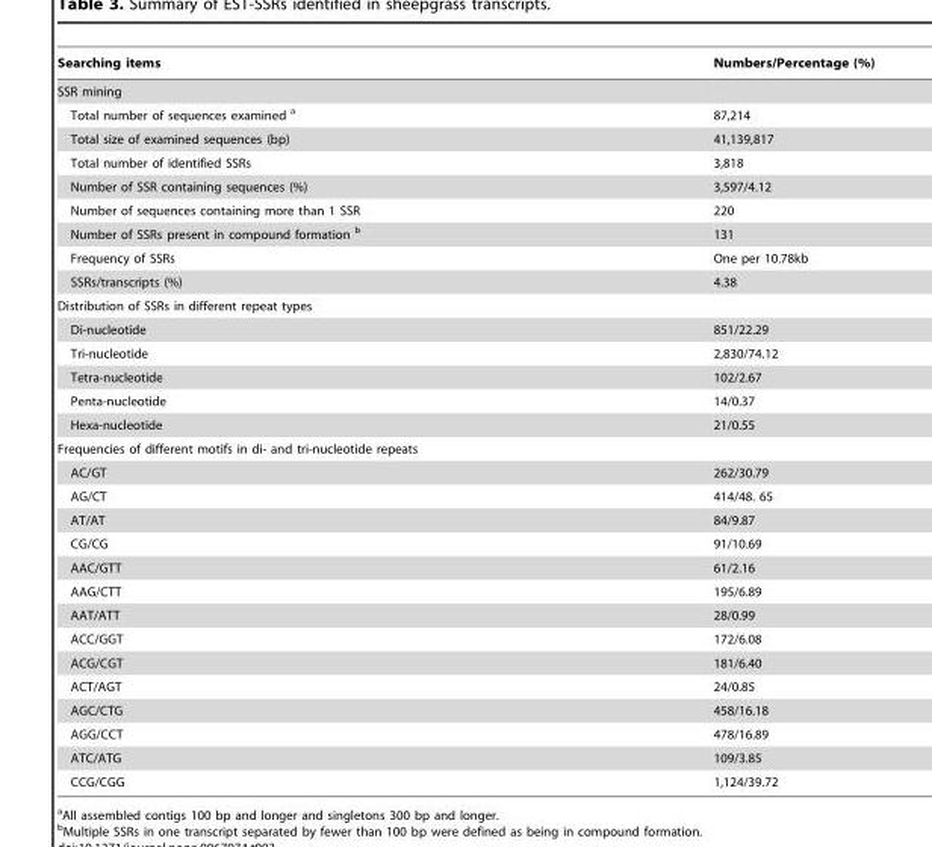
<table><thead><tr><td>Searching items</td><td>Numbers/Percentage (%)</td></tr></thead><tbody><tr><td colspan="2">SSR mining</td></tr><tr><td>Total number of sequences examined a</td><td>87,214</td></tr><tr><td>Total size of examined sequences (bp)</td><td>41,139,817</td></tr><tr><td>Total number of identified SSRs</td><td>3,818</td></tr><tr><td>Number of SSR containing sequences (%)</td><td>3,597/4.12</td></tr><tr><td>Number of sequences containing more than 1 SSR</td><td>220</td></tr><tr><td>Number of SSRs present in compound formation b</td><td>131</td></tr><tr><td>Frequency of SSRs</td><td>One per 10.78kb</td></tr><tr><td>SSRs/transcripts (%)</td><td>4.38</td></tr><tr><td colspan="2">Distribution of SSRs in different repeat types</td></tr><tr><td>Di-nucleotide</td><td>851/22.29</td></tr><tr><td>Tri-nucleotide</td><td>2,830/74.12</td></tr><tr><td>Tetra-nucleotide</td><td>102/2.67</td></tr><tr><td>Penta-nucleotide</td><td>14/0.37</td></tr><tr><td>Hexa-nucleotide</td><td>21/0.55</td></tr><tr><td colspan="2">Frequencies of different motifs in di- and tri-nucleotide repeats</td></tr><tr><td>AC/GT</td><td>262/30.79</td></tr><tr><td>AG/CT</td><td>414/48. 65</td></tr><tr><td>AT/AT</td><td>84/9.87</td></tr><tr><td>CG/CG</td><td>91/10.69</td></tr><tr><td>AAC/GTT</td><td>61/2.16</td></tr><tr><td>AAG/CTT</td><td>195/6.89</td></tr><tr><td>AAT/ATT</td><td>28/0.99</td></tr><tr><td>ACC/GGT</td><td>172/6.08</td></tr><tr><td>ACG/CGT</td><td>181/6.40</td></tr><tr><td>ACT/AGT</td><td>24/0.85</td></tr><tr><td>AGC/CTG</td><td>458/16.18</td></tr><tr><td>AGG/CCT</td><td>478/16.89</td></tr><tr><td>ATC/ATG</td><td>109/3.85</td></tr><tr><td>CCG/CGG</td><td>1,124/39.72</td></tr></tbody></table>